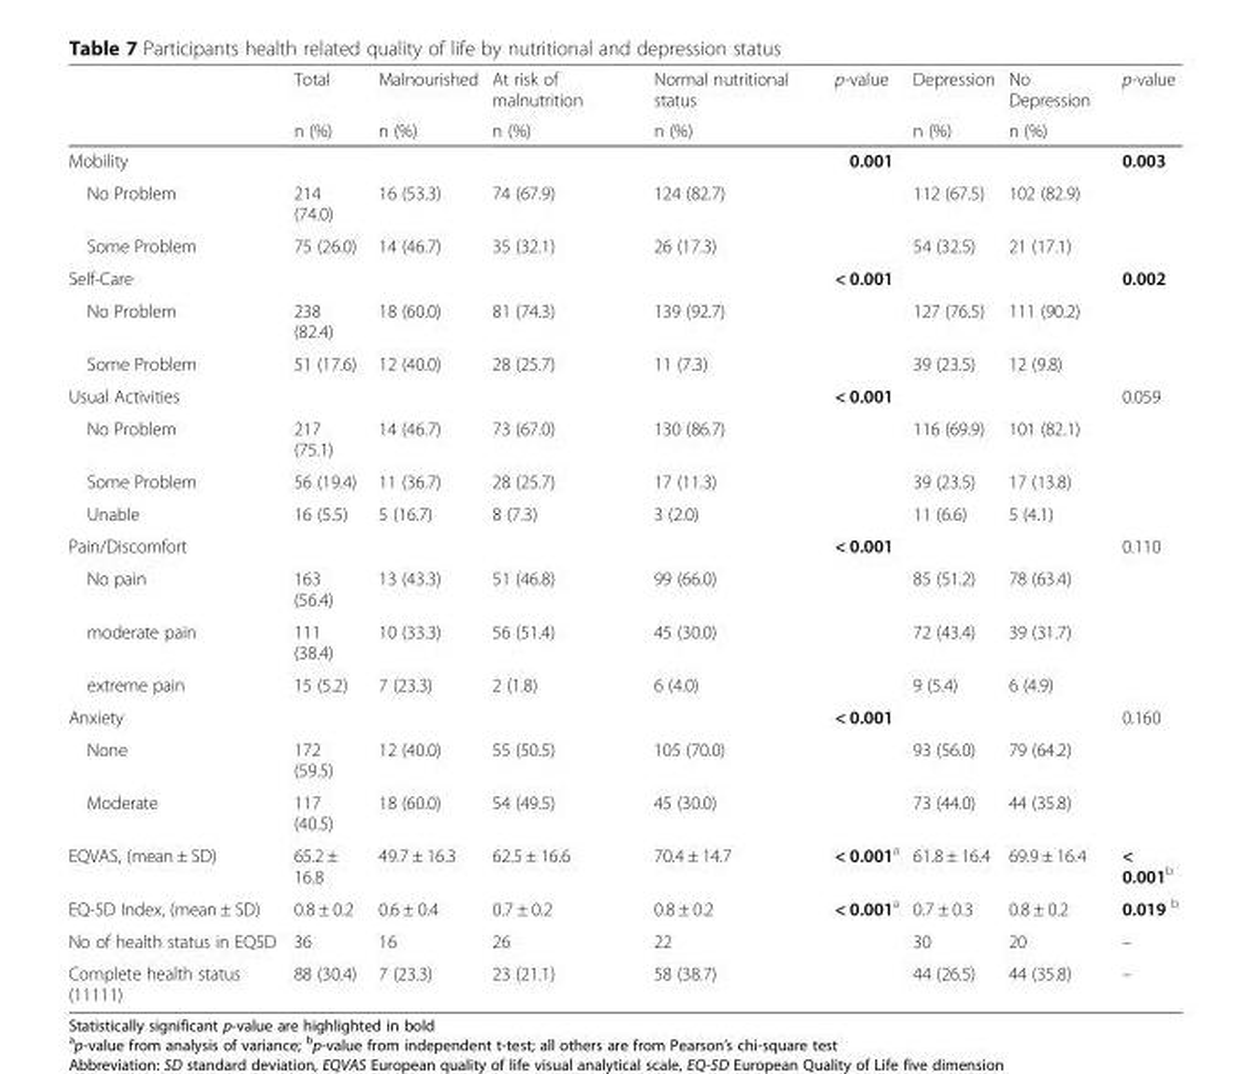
<table><thead><tr><td rowspan="2"></td><td rowspan="2">Total n (%)</td><td rowspan="2">Malnourished n (%)</td><td rowspan="2">At risk of malnutrition n (%)</td><td rowspan="2">Normal nutritional status n (%)</td><td rowspan="2">p-value</td><td rowspan="2">Depression n (%)</td><td rowspan="2">No Depression n (%)</td><td rowspan="2">p-value</td></tr><tr></tr></thead><tbody><tr><td>Mobility</td><td></td><td></td><td></td><td></td><td>0.001</td><td></td><td></td><td>0.003</td></tr><tr><td>No Problem</td><td>214 (74.0)</td><td>16 (53.3)</td><td>74 (67.9)</td><td>124 (82.7)</td><td></td><td>112 (67.5)</td><td>102 (82.9)</td><td></td></tr><tr><td>Some Problem</td><td>75 (26.0)</td><td>14 (46.7)</td><td>35 (32.1)</td><td>26 (17.3)</td><td></td><td>54 (32.5)</td><td>21 (17.1)</td><td></td></tr><tr><td>Self-Care</td><td></td><td></td><td></td><td></td><td>&lt; 0.001</td><td></td><td></td><td>0.002</td></tr><tr><td>No Problem</td><td>238 (82.4)</td><td>18 (60.0)</td><td>81 (74.3)</td><td>139 (92.7)</td><td></td><td>127 (76.5)</td><td>111 (90.2)</td><td></td></tr><tr><td>Some Problem</td><td>51 (17.6)</td><td>12 (40.0)</td><td>28 (25.7)</td><td>11 (7.3)</td><td></td><td>39 (23.5)</td><td>12 (9.8)</td><td></td></tr><tr><td>Usual Activities</td><td></td><td></td><td></td><td></td><td>&lt; 0.001</td><td></td><td></td><td>0.059</td></tr><tr><td>No Problem</td><td>217 (75.1)</td><td>14 (46.7)</td><td>73 (67.0)</td><td>130 (86.7)</td><td></td><td>116 (69.9)</td><td>101 (82.1)</td><td></td></tr><tr><td>Some Problem</td><td>56 (19.4)</td><td>11 (36.7)</td><td>28 (25.7)</td><td>17 (11.3)</td><td></td><td>39 (23.5)</td><td>17 (13.8)</td><td></td></tr><tr><td>Unable</td><td>16 (5.5)</td><td>5 (16.7)</td><td>8 (7.3)</td><td>3 (2.0)</td><td></td><td>11 (6.6)</td><td>5 (4.1)</td><td></td></tr><tr><td>Pain/Discomfort</td><td></td><td></td><td></td><td></td><td>&lt; 0.001</td><td></td><td></td><td>0.110</td></tr><tr><td>No pain</td><td>163 (56.4)</td><td>13 (43.3)</td><td>51 (46.8)</td><td>99 (66.0)</td><td></td><td>85 (51.2)</td><td>78 (63.4)</td><td></td></tr><tr><td>moderate pain</td><td>111 (38.4)</td><td>10 (33.3)</td><td>56 (51.4)</td><td>45 (30.0)</td><td></td><td>72 (43.4)</td><td>39 (31.7)</td><td></td></tr><tr><td>extreme pain</td><td>15 (5.2)</td><td>7 (23.3)</td><td>2 (1.8)</td><td>6 (4.0)</td><td></td><td>9 (5.4)</td><td>6 (4.9)</td><td></td></tr><tr><td>Anxiety</td><td></td><td></td><td></td><td></td><td>&lt; 0.001</td><td></td><td></td><td>0.160</td></tr><tr><td>None</td><td>172 (59.5)</td><td>12 (40.0)</td><td>55 (50.5)</td><td>105 (70.0)</td><td></td><td>93 (56.0)</td><td>79 (64.2)</td><td></td></tr><tr><td>Moderate</td><td>117 (40.5)</td><td>18 (60.0)</td><td>54 (49.5)</td><td>45 (30.0)</td><td></td><td>73 (44.0)</td><td>44 (35.8)</td><td></td></tr><tr><td>EQVAS, (mean ± SD)</td><td>65.2 ± 16.8</td><td>49.7 ± 16.3</td><td>62.5 ± 16.6</td><td>70.4 ± 14.7</td><td>&lt; 0.001<sup>a</sup></td><td>61.8 ± 16.4</td><td>69.9 ± 16.4</td><td>&lt; 0.001<sup>b</sup></td></tr><tr><td>EQ-5D Index, (mean ± SD)</td><td>0.8 ± 0.2</td><td>0.6 ± 0.4</td><td>0.7 ± 0.2</td><td>0.8 ± 0.2</td><td>&lt; 0.001<sup>a</sup></td><td>0.7 ± 0.3</td><td>0.8 ± 0.2</td><td>0.019 <sup>b</sup></td></tr><tr><td>No of health status in EQ5D</td><td>36</td><td>16</td><td>26</td><td>22</td><td></td><td>30</td><td>20</td><td>–</td></tr><tr><td>Complete health status (11111)</td><td>88 (30.4)</td><td>7 (23.3)</td><td>23 (21.1)</td><td>58 (38.7)</td><td></td><td>44 (26.5)</td><td>44 (35.8)</td><td>–</td></tr></tbody></table>